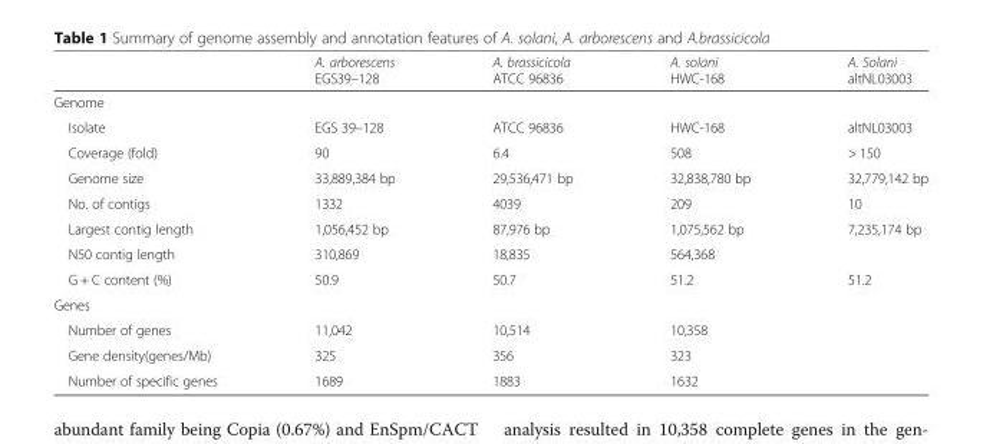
<table><thead><tr><td></td><td>A. arborescens EGS39–128</td><td>A. brassicicola ATCC 96836</td><td>A. solani HWC-168</td><td>A. Solani altNL03003</td></tr></thead><tbody><tr><td colspan="5">Genome</td></tr><tr><td>Isolate</td><td>EGS 39–128</td><td>ATCC 96836</td><td>HWC-168</td><td>altNL03003</td></tr><tr><td>Coverage (fold)</td><td>90</td><td>6.4</td><td>508</td><td>&gt; 150</td></tr><tr><td>Genome size</td><td>33,889,384 bp</td><td>29,536,471 bp</td><td>32,838,780 bp</td><td>32,779,142 bp</td></tr><tr><td>No. of contigs</td><td>1332</td><td>4039</td><td>209</td><td>10</td></tr><tr><td>Largest contig length</td><td>1,056,452 bp</td><td>87,976 bp</td><td>1,075,562 bp</td><td>7,235,174 bp</td></tr><tr><td>N50 contig length</td><td>310,869</td><td>18,835</td><td>564,368</td><td></td></tr><tr><td>G + C content (%)</td><td>50.9</td><td>50.7</td><td>51.2</td><td>51.2</td></tr><tr><td colspan="5">Genes</td></tr><tr><td>Number of genes</td><td>11,042</td><td>10,514</td><td>10,358</td><td></td></tr><tr><td>Gene density(genes/Mb)</td><td>325</td><td>356</td><td>323</td><td></td></tr><tr><td>Number of specific genes</td><td>1689</td><td>1883</td><td>1632</td><td></td></tr></tbody></table>